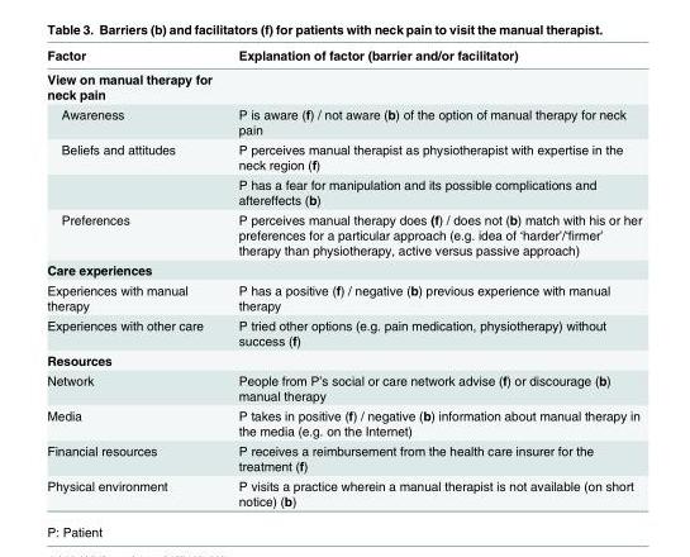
<table><thead><tr><td>Factor</td><td>Explanation of factor (barrier and/or facilitator)</td></tr></thead><tbody><tr><td colspan="2">View on manual therapy for neck pain</td></tr><tr><td>Awareness</td><td>P is aware (f) / not aware (b) of the option of manual therapy for neck pain</td></tr><tr><td rowspan="2">Beliefs and attitudes</td><td>P perceives manual therapist as physiotherapist with expertise in the neck region (f)</td></tr><tr><td>P has a fear for manipulation and its possible complications and aftereffects (b)</td></tr><tr><td>Preferences</td><td>P perceives manual therapy does (f) / does not (b) match with his or her preferences for a particular approach (e.g. idea of ‘harder’/‘firmer’ therapy than physiotherapy, active versus passive approach)</td></tr><tr><td colspan="2">Care experiences</td></tr><tr><td>Experiences with manual therapy</td><td>P has a positive (f) / negative (b) previous experience with manual therapy</td></tr><tr><td>Experiences with other care</td><td>P tried other options (e.g. pain medication, physiotherapy) without success (f)</td></tr><tr><td colspan="2">Resources</td></tr><tr><td>Network</td><td>People from P’s social or care network advise (f) or discourage (b) manual therapy</td></tr><tr><td>Media</td><td>P takes in positive (f) / negative (b) information about manual therapy in the media (e.g. on the Internet)</td></tr><tr><td>Financial resources</td><td>P receives a reimbursement from the health care insurer for the treatment (f)</td></tr><tr><td>Physical environment</td><td>P visits a practice wherein a manual therapist is not available (on short notice) (b)</td></tr></tbody></table>